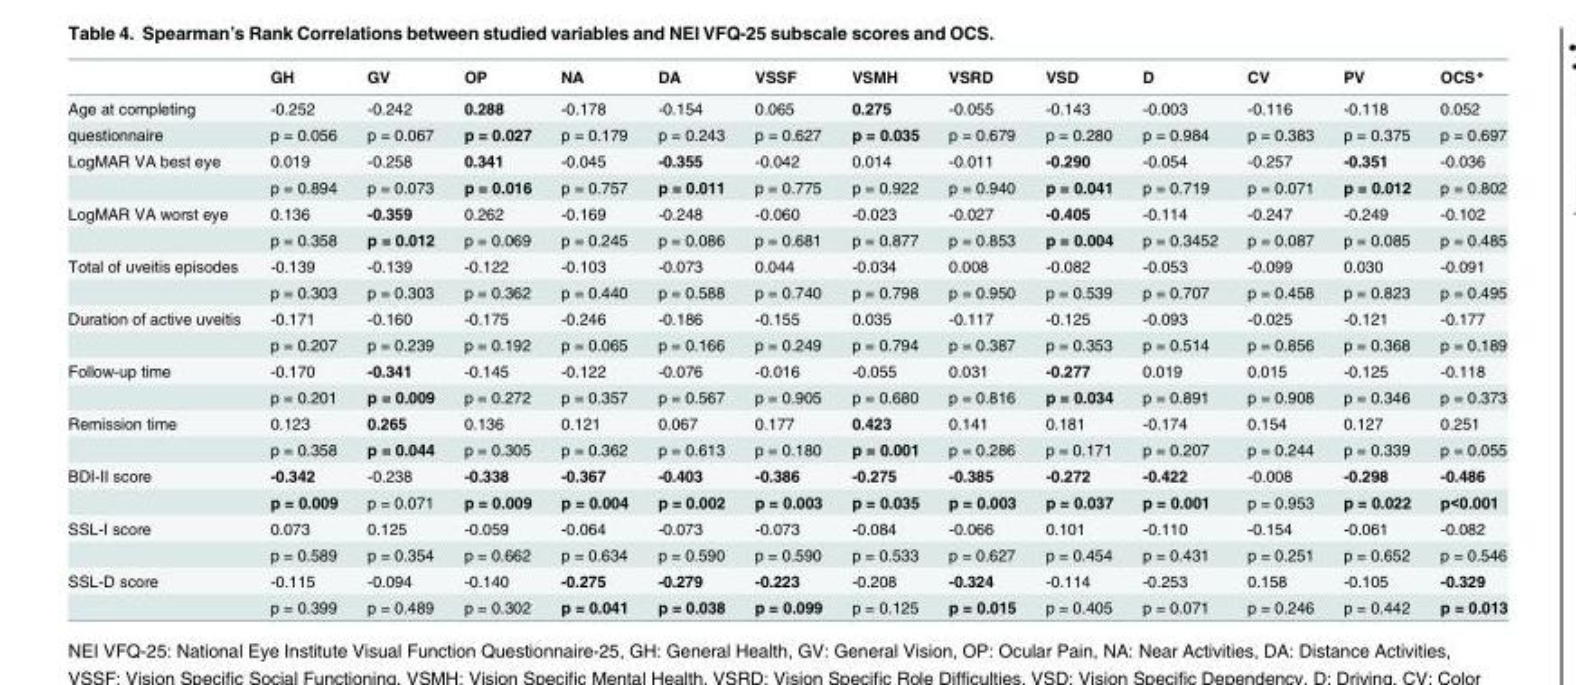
<table><thead><tr><td></td><td>GH</td><td>GV</td><td>OP</td><td>NA</td><td>DA</td><td>VSSF</td><td>VSMH</td><td>VSRD</td><td>VSD</td><td>D</td><td>CV</td><td>PV</td><td>OCS*</td></tr></thead><tbody><tr><td>Age at completing</td><td>-0.252</td><td>-0.242</td><td>0.288</td><td>-0.178</td><td>-0.154</td><td>0.065</td><td>0.275</td><td>-0.055</td><td>-0.143</td><td>-0.003</td><td>-0.116</td><td>-0.118</td><td>0.052</td></tr><tr><td>questionnaire</td><td>p = 0.056</td><td>p = 0.067</td><td>p = 0.027</td><td>p = 0.179</td><td>p = 0.243</td><td>p = 0.627</td><td>p = 0.035</td><td>p = 0.679</td><td>p = 0.280</td><td>p = 0.984</td><td>p = 0.383</td><td>p = 0.375</td><td>p = 0.697</td></tr><tr><td rowspan="2">LogMAR VA best eye</td><td>0.019</td><td>-0.258</td><td>0.341</td><td>-0.045</td><td>-0.355</td><td>-0.042</td><td>0.014</td><td>-0.011</td><td>-0.290</td><td>-0.054</td><td>-0.257</td><td>-0.351</td><td>-0.036</td></tr><tr><td>p = 0.894</td><td>p = 0.073</td><td>p = 0.016</td><td>p = 0.757</td><td>p = 0.011</td><td>p = 0.775</td><td>p = 0.922</td><td>p = 0.940</td><td>p = 0.041</td><td>p = 0.719</td><td>p = 0.071</td><td>p = 0.012</td><td>p = 0.802</td></tr><tr><td rowspan="2">LogMAR VA worst eye</td><td>0.136</td><td>-0.359</td><td>0.262</td><td>-0.169</td><td>-0.248</td><td>-0.060</td><td>-0.023</td><td>-0.027</td><td>-0.405</td><td>-0.114</td><td>-0.247</td><td>-0.249</td><td>-0.102</td></tr><tr><td>p = 0.358</td><td>p = 0.012</td><td>p = 0.069</td><td>p = 0.245</td><td>p = 0.086</td><td>p = 0.681</td><td>p = 0.877</td><td>p = 0.853</td><td>p = 0.004</td><td>p = 0.3452</td><td>p = 0.087</td><td>p = 0.085</td><td>p = 0.485</td></tr><tr><td rowspan="2">Total of uveitis episodes</td><td>-0.139</td><td>-0.139</td><td>-0.122</td><td>-0.103</td><td>-0.073</td><td>0.044</td><td>-0.034</td><td>0.008</td><td>-0.082</td><td>-0.053</td><td>-0.099</td><td>0.030</td><td>-0.091</td></tr><tr><td>p = 0.303</td><td>p = 0.303</td><td>p = 0.362</td><td>p = 0.440</td><td>p = 0.588</td><td>p = 0.740</td><td>p = 0.798</td><td>p = 0.950</td><td>p = 0.539</td><td>p = 0.707</td><td>p = 0.458</td><td>p = 0.823</td><td>p = 0.495</td></tr><tr><td rowspan="2">Duration of active uveitis</td><td>-0.171</td><td>-0.160</td><td>-0.175</td><td>-0.246</td><td>-0.186</td><td>-0.155</td><td>0.035</td><td>-0.117</td><td>-0.125</td><td>-0.093</td><td>-0.025</td><td>-0.121</td><td>-0.177</td></tr><tr><td>p = 0.207</td><td>p = 0.239</td><td>p = 0.192</td><td>p = 0.065</td><td>p = 0.166</td><td>p = 0.249</td><td>p = 0.794</td><td>p = 0.387</td><td>p = 0.353</td><td>p = 0.514</td><td>p = 0.856</td><td>p = 0.368</td><td>p = 0.189</td></tr><tr><td rowspan="2">Follow-up time</td><td>-0.170</td><td>-0.341</td><td>-0.145</td><td>-0.122</td><td>-0.076</td><td>-0.016</td><td>-0.055</td><td>0.031</td><td>-0.277</td><td>0.019</td><td>0.015</td><td>-0.125</td><td>-0.118</td></tr><tr><td>p = 0.201</td><td>p = 0.009</td><td>p = 0.272</td><td>p = 0.357</td><td>p = 0.567</td><td>p = 0.905</td><td>p = 0.680</td><td>p = 0.816</td><td>p = 0.034</td><td>p = 0.891</td><td>p = 0.908</td><td>p = 0.346</td><td>p = 0.373</td></tr><tr><td rowspan="2">Remission time</td><td>0.123</td><td>0.265</td><td>0.136</td><td>0.121</td><td>0.067</td><td>0.177</td><td>0.423</td><td>0.141</td><td>0.181</td><td>-0.174</td><td>0.154</td><td>0.127</td><td>0.251</td></tr><tr><td>p = 0.358</td><td>p = 0.044</td><td>p = 0.305</td><td>p = 0.362</td><td>p = 0.613</td><td>p = 0.180</td><td>p = 0.001</td><td>p = 0.286</td><td>p = 0.171</td><td>p = 0.207</td><td>p = 0.244</td><td>p = 0.339</td><td>p = 0.055</td></tr><tr><td rowspan="2">BDI-II score</td><td>-0.342</td><td>-0.238</td><td>-0.338</td><td>-0.367</td><td>-0.403</td><td>-0.386</td><td>-0.275</td><td>-0.385</td><td>-0.272</td><td>-0.422</td><td>-0.008</td><td>-0.298</td><td>-0.486</td></tr><tr><td>p = 0.009</td><td>p = 0.071</td><td>p = 0.009</td><td>p = 0.004</td><td>p = 0.002</td><td>p = 0.003</td><td>p = 0.035</td><td>p = 0.003</td><td>p = 0.037</td><td>p = 0.001</td><td>p = 0.953</td><td>p = 0.022</td><td>p&lt;0.001</td></tr><tr><td rowspan="2">SSL-I score</td><td>0.073</td><td>0.125</td><td>-0.059</td><td>-0.064</td><td>-0.073</td><td>-0.073</td><td>-0.084</td><td>-0.066</td><td>0.101</td><td>-0.110</td><td>-0.154</td><td>-0.061</td><td>-0.082</td></tr><tr><td>p = 0.589</td><td>p = 0.354</td><td>p = 0.662</td><td>p = 0.634</td><td>p = 0.590</td><td>p = 0.590</td><td>p = 0.533</td><td>p = 0.627</td><td>p = 0.454</td><td>p = 0.431</td><td>p = 0.251</td><td>p = 0.652</td><td>p = 0.546</td></tr><tr><td rowspan="2">SSL-D score</td><td>-0.115</td><td>-0.094</td><td>-0.140</td><td>-0.275</td><td>-0.279</td><td>-0.223</td><td>-0.208</td><td>-0.324</td><td>-0.114</td><td>-0.253</td><td>0.158</td><td>-0.105</td><td>-0.329</td></tr><tr><td>p = 0.399</td><td>p = 0.489</td><td>p = 0.302</td><td>p = 0.041</td><td>p = 0.038</td><td>p = 0.099</td><td>p = 0.125</td><td>p = 0.015</td><td>p = 0.405</td><td>p = 0.071</td><td>p = 0.246</td><td>p = 0.442</td><td>p = 0.013</td></tr></tbody></table>